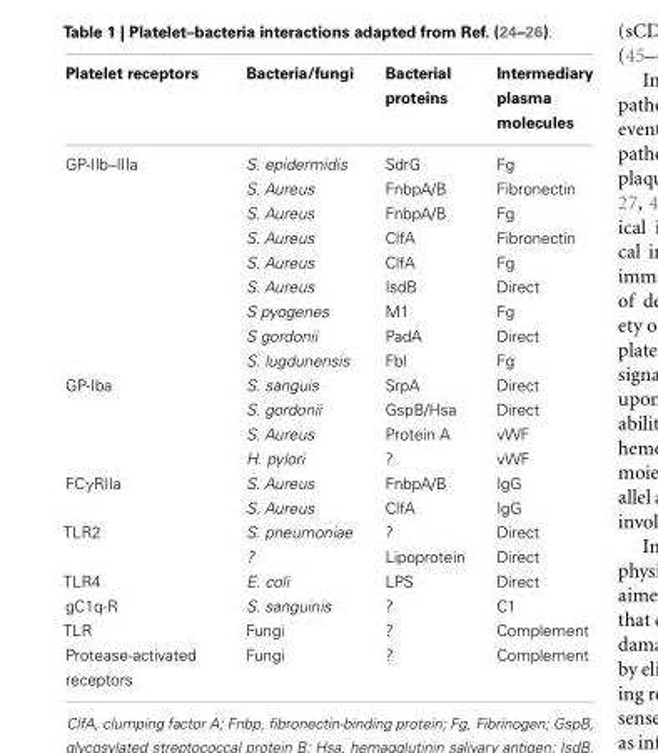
<table><thead><tr><td>Platelet receptors</td><td>Bacteria/fungi</td><td>Bacterial proteins</td><td>Intermediary plasma molecules</td></tr></thead><tbody><tr><td rowspan="9">GP-IIb–IIIa</td><td>S. epidermidis</td><td>SdrG</td><td>Fg</td></tr><tr><td>S. Aureus</td><td>FnbpA/B</td><td>Fibronectin</td></tr><tr><td>S. Aureus</td><td>FnbpA/B</td><td>Fg</td></tr><tr><td>S. Aureus</td><td>ClfA</td><td>Fibronectin</td></tr><tr><td>S. Aureus</td><td>ClfA</td><td>Fg</td></tr><tr><td>S. Aureus</td><td>IsdB</td><td>Direct</td></tr><tr><td>S pyogenes</td><td>M1</td><td>Fg</td></tr><tr><td>S gordonii</td><td>PadA</td><td>Direct</td></tr><tr><td>S. lugdunensis</td><td>Fbl</td><td>Fg</td></tr><tr><td rowspan="4">GP-Iba</td><td>S. sanguis</td><td>SrpA</td><td>Direct</td></tr><tr><td>S. gordonii</td><td>GspB/Hsa</td><td>Direct</td></tr><tr><td>S. Aureus</td><td>Protein A</td><td>vWF</td></tr><tr><td>H. pylori</td><td>?</td><td>vWF</td></tr><tr><td rowspan="2">FCγRIIa</td><td>S. Aureus</td><td>FnbpA/B</td><td>IgG</td></tr><tr><td>S. Aureus</td><td>ClfA</td><td>IgG</td></tr><tr><td rowspan="2">TLR2</td><td>S. pneumoniae</td><td>?</td><td>Direct</td></tr><tr><td>?</td><td>Lipoprotein</td><td>Direct</td></tr><tr><td>TLR4</td><td>E. coli</td><td>LPS</td><td>Direct</td></tr><tr><td>gC1q-R</td><td>S. sanguinis</td><td>?</td><td>C1</td></tr><tr><td>TLR</td><td>Fungi</td><td>?</td><td>Complement</td></tr><tr><td>Protease-activated receptors</td><td>Fungi</td><td>?</td><td>Complement</td></tr></tbody></table>